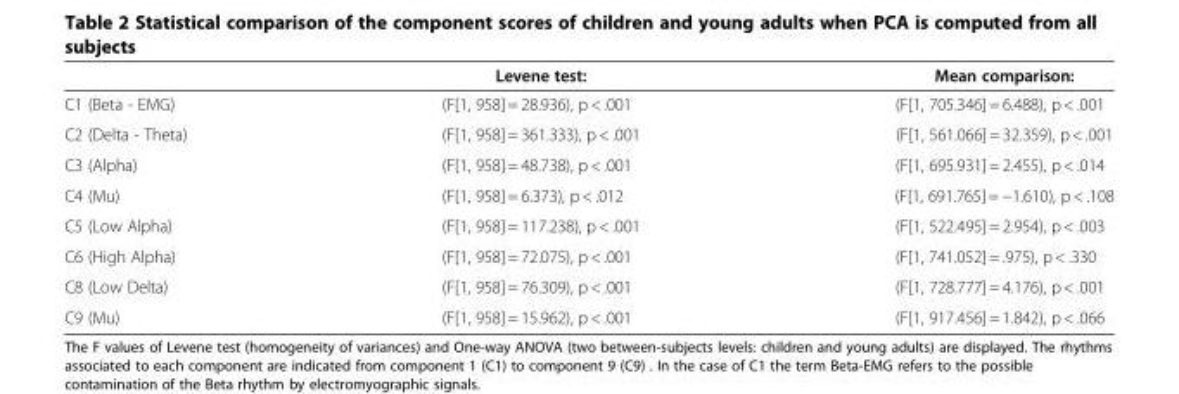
<table><thead><tr><td></td><td>Levene test:</td><td>Mean comparison:</td></tr></thead><tbody><tr><td>C1 (Beta - EMG)</td><td>(F[1, 958] = 28.936), p &lt; .001</td><td>(F[1, 705.346] = 6.488), p &lt; .001</td></tr><tr><td>C2 (Delta - Theta)</td><td>(F[1, 958] = 361.333), p &lt; .001</td><td>(F[1, 561.066] = 32.359), p &lt; .001</td></tr><tr><td>C3 (Alpha)</td><td>(F[1, 958] = 48.738), p &lt; .001</td><td>(F[1, 695.931] = 2.455), p &lt; .014</td></tr><tr><td>C4 (Mu)</td><td>(F[1, 958] = 6.373), p &lt; .012</td><td>(F[1, 691.765] = −1.610), p &lt; .108</td></tr><tr><td>C5 (Low Alpha)</td><td>(F[1, 958] = 117.238), p &lt; .001</td><td>(F[1, 522.495] = 2.954), p &lt; .003</td></tr><tr><td>C6 (High Alpha)</td><td>(F[1, 958] = 72.075), p &lt; .001</td><td>(F[1, 741.052] = .975), p &lt; .330</td></tr><tr><td>C8 (Low Delta)</td><td>(F[1, 958] = 76.309), p &lt; .001</td><td>(F[1, 728.777] = 4.176), p &lt; .001</td></tr><tr><td>C9 (Mu)</td><td>(F[1, 958] = 15.962), p &lt; .001</td><td>(F[1, 917.456] = 1.842), p &lt; .066</td></tr></tbody></table>